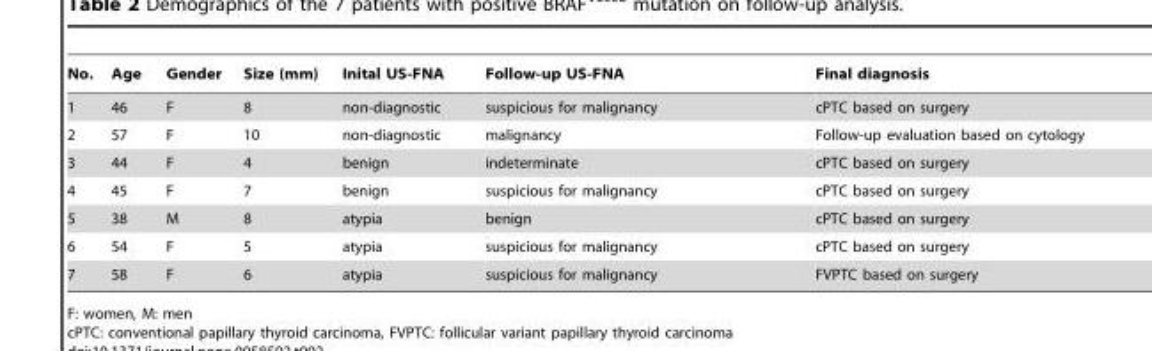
<table><thead><tr><td>No.</td><td>Age</td><td>Gender</td><td>Size (mm)</td><td>Inital US-FNA</td><td>Follow-up US-FNA</td><td>Final diagnosis</td></tr></thead><tbody><tr><td>1</td><td>46</td><td>F</td><td>8</td><td>non-diagnostic</td><td>suspicious for malignancy</td><td>cPTC based on surgery</td></tr><tr><td>2</td><td>57</td><td>F</td><td>10</td><td>non-diagnostic</td><td>malignancy</td><td>Follow-up evaluation based on cytology</td></tr><tr><td>3</td><td>44</td><td>F</td><td>4</td><td>benign</td><td>indeterminate</td><td>cPTC based on surgery</td></tr><tr><td>4</td><td>45</td><td>F</td><td>7</td><td>benign</td><td>suspicious for malignancy</td><td>cPTC based on surgery</td></tr><tr><td>5</td><td>38</td><td>M</td><td>8</td><td>atypia</td><td>benign</td><td>cPTC based on surgery</td></tr><tr><td>6</td><td>54</td><td>F</td><td>5</td><td>atypia</td><td>suspicious for malignancy</td><td>cPTC based on surgery</td></tr><tr><td>7</td><td>58</td><td>F</td><td>6</td><td>atypia</td><td>suspicious for malignancy</td><td>FVPTC based on surgery</td></tr></tbody></table>